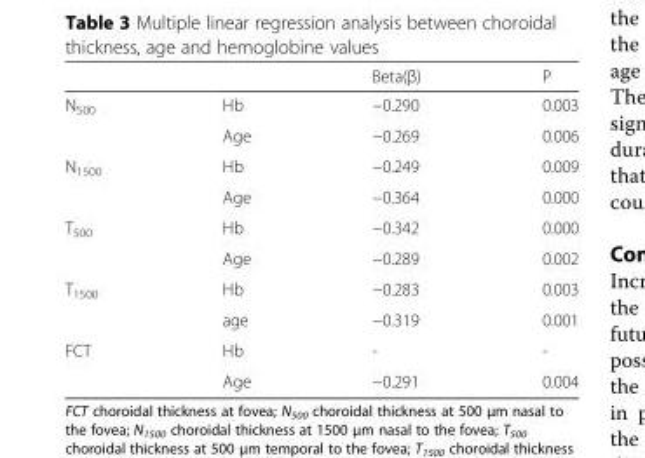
<table><thead><tr><td></td><td></td><td>Beta(β)</td><td>P</td></tr></thead><tbody><tr><td rowspan="2">N<sub>500</sub></td><td>Hb</td><td>−0.290</td><td>0.003</td></tr><tr><td>Age</td><td>−0.269</td><td>0.006</td></tr><tr><td rowspan="2">N<sub>1500</sub></td><td>Hb</td><td>−0.249</td><td>0.009</td></tr><tr><td>Age</td><td>−0.364</td><td>0.000</td></tr><tr><td rowspan="2">T<sub>500</sub></td><td>Hb</td><td>−0.342</td><td>0.000</td></tr><tr><td>Age</td><td>−0.289</td><td>0.002</td></tr><tr><td rowspan="2">T<sub>1500</sub></td><td>Hb</td><td>−0.283</td><td>0.003</td></tr><tr><td>age</td><td>−0.319</td><td>0.001</td></tr><tr><td rowspan="2">FCT</td><td>Hb</td><td>-</td><td>-</td></tr><tr><td>Age</td><td>−0.291</td><td>0.004</td></tr></tbody></table>